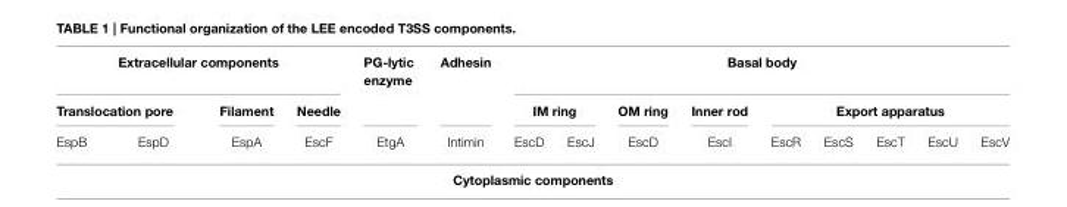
<table><thead><tr><td colspan="4">Extracellular components</td><td rowspan="3">PG-lytic enzyme EtgA</td><td rowspan="3">Adhesin Intimin</td><td colspan="9">Basal body</td></tr><tr><td colspan="2">Translocation pore</td><td rowspan="2">Filament EspA</td><td rowspan="2">Needle EscF</td><td colspan="2">IM ring</td><td rowspan="2">OM ring EscD</td><td rowspan="2">Inner rod EscI</td><td colspan="5">Export apparatus</td></tr><tr><td>EspB</td><td>EspD</td><td>EscD</td><td>EscJ</td><td>EscR</td><td>EscS</td><td>EscT</td><td>EscU</td><td>EscV</td></tr></thead><tbody></tbody></table>